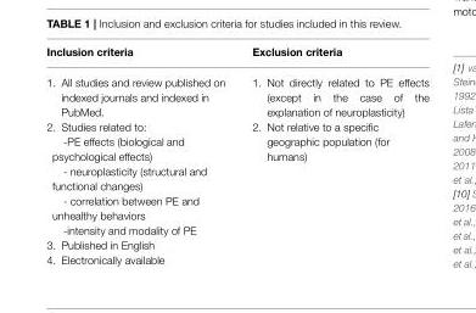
<table><thead><tr><td>Inclusion criteria</td><td>Exclusion criteria</td></tr></thead><tbody><tr><td>1. All studies and review published on indexed journals and indexed in PubMed. 2. Studies related to: -PE effects (biological and psychological effects) - neuroplasticity (structural and functional changes) - correlation between PE and unhealthy behaviors -intensity and modality of PE 3. Published in English 4. Electronically available</td><td>1. Not directly related to PE effects (except in the case of the explanation of neuroplasticity) 2. Not relative to a specific geographic population (for humans)</td></tr></tbody></table>